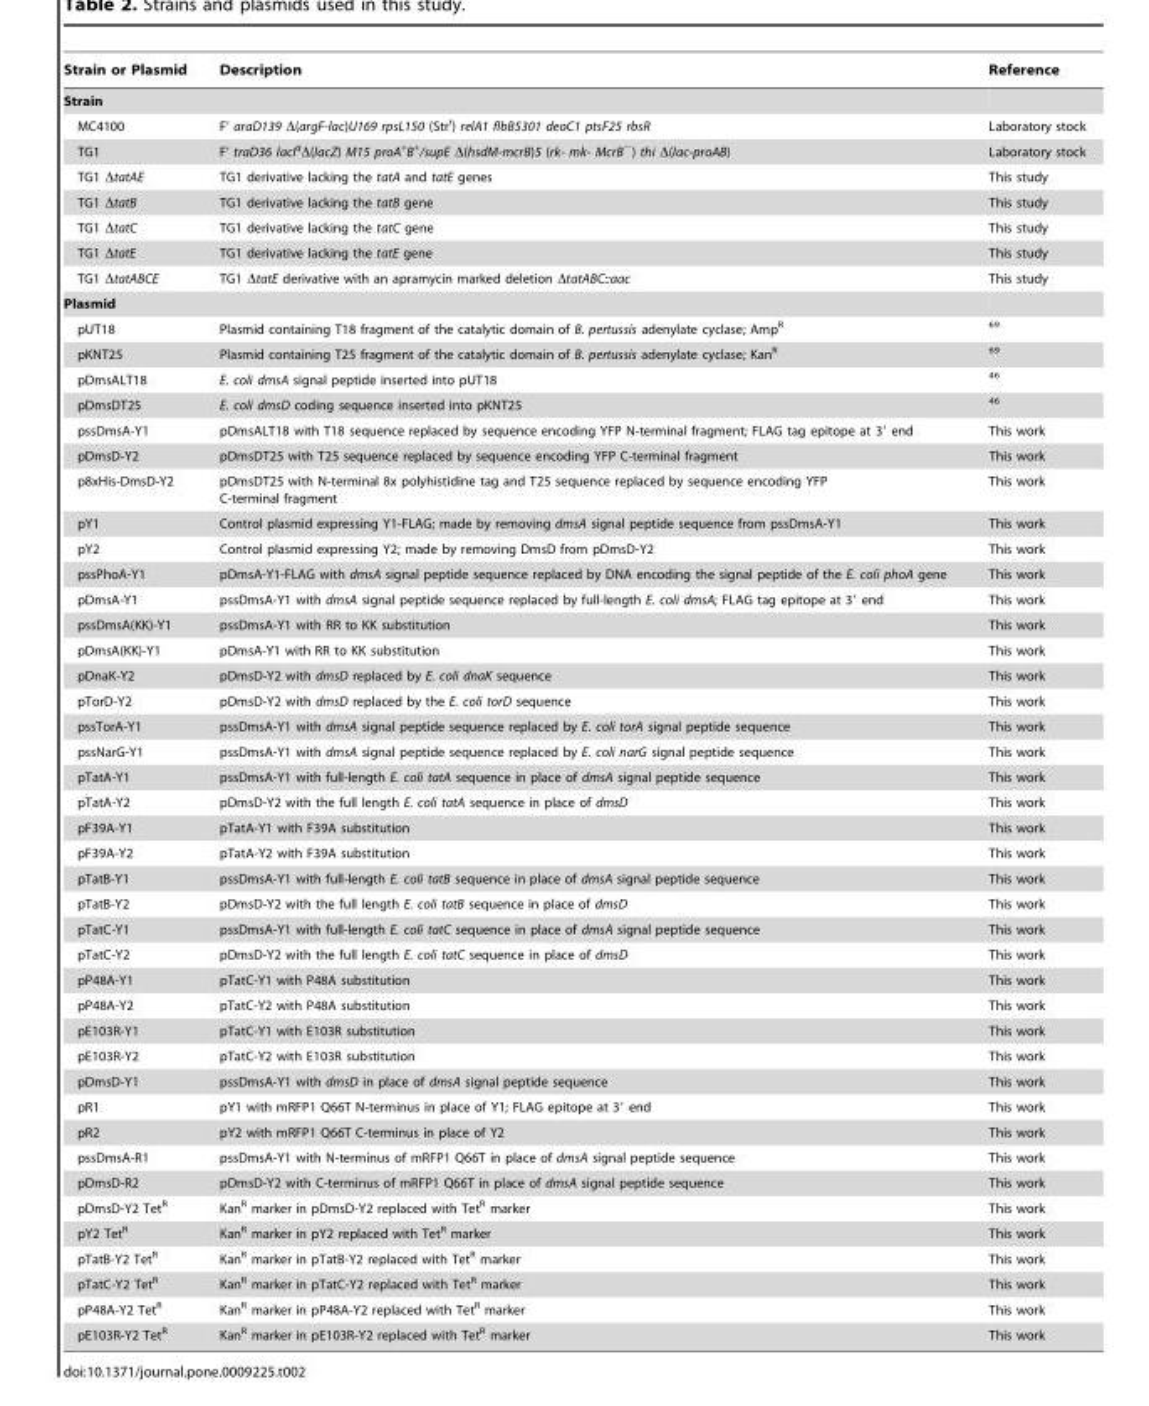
<table><thead><tr><td>Strain or Plasmid</td><td>Description</td><td>Reference</td></tr></thead><tbody><tr><td colspan="3">Strain</td></tr><tr><td>MC4100</td><td>F’ araD139 Δ(argF-lac)U169 rpsL150 (Str<sup>r</sup>) relA1 flbB5301 deoC1 ptsF25 rbsR</td><td>Laboratory stock</td></tr><tr><td>TG1</td><td>F’ traD36 lacI<sup>q</sup>Δ(lacZ) M15 proA<sup>+</sup>B<sup>+</sup>/supE Δ(hsdM-mcrB)5 (rk- mk- McrB<sup>−</sup>) thi Δ(lac-proAB)</td><td>Laboratory stock</td></tr><tr><td>TG1 ΔtatAE</td><td>TG1 derivative lacking the tatA and tatE genes</td><td>This study</td></tr><tr><td>TG1 ΔtatB</td><td>TG1 derivative lacking the tatB gene</td><td>This study</td></tr><tr><td>TG1 ΔtatC</td><td>TG1 derivative lacking the tatC gene</td><td>This study</td></tr><tr><td>TG1 ΔtatE</td><td>TG1 derivative lacking the tatE gene</td><td>This study</td></tr><tr><td>TG1 ΔtatABCE</td><td>TG1 ΔtatE derivative with an apramycin marked deletion ΔtatABC::aac</td><td>This study</td></tr><tr><td colspan="3">Plasmid</td></tr><tr><td>pUT18</td><td>Plasmid containing T18 fragment of the catalytic domain of B. pertussis adenylate cyclase; Amp<sup>R</sup></td><td><sup>69</sup></td></tr><tr><td>pKNT25</td><td>Plasmid containing T25 fragment of the catalytic domain of B. pertussis adenylate cyclase; Kan<sup>R</sup></td><td><sup>69</sup></td></tr><tr><td>pDmsALT18</td><td>E. coli dmsA signal peptide inserted into pUT18</td><td><sup>46</sup></td></tr><tr><td>pDmsDT25</td><td>E. coli dmsD coding sequence inserted into pKNT25</td><td><sup>46</sup></td></tr><tr><td>pssDmsA-Y1</td><td>pDmsALT18 with T18 sequence replaced by sequence encoding YFP N-terminal fragment; FLAG tag epitope at 3′ end</td><td>This work</td></tr><tr><td>pDmsD-Y2</td><td>pDmsDT25 with T25 sequence replaced by sequence encoding YFP C-terminal fragment</td><td>This work</td></tr><tr><td>p8xHis-DmsD-Y2</td><td>pDmsDT25 with N-terminal 8x polyhistidine tag and T25 sequence replaced by sequence encoding YFP C-terminal fragment</td><td>This work</td></tr><tr><td>pY1</td><td>Control plasmid expressing Y1-FLAG; made by removing dmsA signal peptide sequence from pssDmsA-Y1</td><td>This work</td></tr><tr><td>pY2</td><td>Control plasmid expressing Y2; made by removing DmsD from pDmsD-Y2</td><td>This work</td></tr><tr><td>pssPhoA-Y1</td><td>pDmsA-Y1-FLAG with dmsA signal peptide sequence replaced by DNA encoding the signal peptide of the E. coli phoA gene</td><td>This work</td></tr><tr><td>pDmsA-Y1</td><td>pssDmsA-Y1 with dmsA signal peptide sequence replaced by full-length E. coli dmsA; FLAG tag epitope at 3′ end</td><td>This work</td></tr><tr><td>pssDmsA(KK)-Y1</td><td>pssDmsA-Y1 with RR to KK substitution</td><td>This work</td></tr><tr><td>pDmsA(KK)-Y1</td><td>pDmsA-Y1 with RR to KK substitution</td><td>This work</td></tr><tr><td>pDnaK-Y2</td><td>pDmsD-Y2 with dmsD replaced by E. coli dnaK sequence</td><td>This work</td></tr><tr><td>pTorD-Y2</td><td>pDmsD-Y2 with dmsD replaced by the E. coli torD sequence</td><td>This work</td></tr><tr><td>pssTorA-Y1</td><td>pssDmsA-Y1 with dmsA signal peptide sequence replaced by E. coli torA signal peptide sequence</td><td>This work</td></tr><tr><td>pssNarG-Y1</td><td>pssDmsA-Y1 with dmsA signal peptide sequence replaced by E. coli narG signal peptide sequence</td><td>This work</td></tr><tr><td>pTatA-Y1</td><td>pssDmsA-Y1 with full-length E. coli tatA sequence in place of dmsA signal peptide sequence</td><td>This work</td></tr><tr><td>pTatA-Y2</td><td>pDmsD-Y2 with the full length E. coli tatA sequence in place of dmsD</td><td>This work</td></tr><tr><td>pF39A-Y1</td><td>pTatA-Y1 with F39A substitution</td><td>This work</td></tr><tr><td>pF39A-Y2</td><td>pTatA-Y2 with F39A substitution</td><td>This work</td></tr><tr><td>pTatB-Y1</td><td>pssDmsA-Y1 with full-length E. coli tatB sequence in place of dmsA signal peptide sequence</td><td>This work</td></tr><tr><td>pTatB-Y2</td><td>pDmsD-Y2 with the full length E. coli tatB sequence in place of dmsD</td><td>This work</td></tr><tr><td>pTatC-Y1</td><td>pssDmsA-Y1 with full-length E. coli tatC sequence in place of dmsA signal peptide sequence</td><td>This work</td></tr><tr><td>pTatC-Y2</td><td>pDmsD-Y2 with the full length E. coli tatC sequence in place of dmsD</td><td>This work</td></tr><tr><td>pP48A-Y1</td><td>pTatC-Y1 with P48A substitution</td><td>This work</td></tr><tr><td>pP48A-Y2</td><td>pTatC-Y2 with P48A substitution</td><td>This work</td></tr><tr><td>pE103R-Y1</td><td>pTatC-Y1 with E103R substitution</td><td>This work</td></tr><tr><td>pE103R-Y2</td><td>pTatC-Y2 with E103R substitution</td><td>This work</td></tr><tr><td>pDmsD-Y1</td><td>pssDmsA-Y1 with dmsD in place of dmsA signal peptide sequence</td><td>This work</td></tr><tr><td>pR1</td><td>pY1 with mRFP1 Q66T N-terminus in place of Y1; FLAG epitope at 3′ end</td><td>This work</td></tr><tr><td>pR2</td><td>pY2 with mRFP1 Q66T C-terminus in place of Y2</td><td>This work</td></tr><tr><td>pssDmsA-R1</td><td>pssDmsA-Y1 with N-terminus of mRFP1 Q66T in place of dmsA signal peptide sequence</td><td>This work</td></tr><tr><td>pDmsD-R2</td><td>pDmsD-Y2 with C-terminus of mRFP1 Q66T in place of dmsA signal peptide sequence</td><td>This work</td></tr><tr><td>pDmsD-Y2 Tet<sup>R</sup></td><td>Kan<sup>R</sup> marker in pDmsD-Y2 replaced with Tet<sup>R</sup> marker</td><td>This work</td></tr><tr><td>pY2 Tet<sup>R</sup></td><td>Kan<sup>R</sup> marker in pY2 replaced with Tet<sup>R</sup> marker</td><td>This work</td></tr><tr><td>pTatB-Y2 Tet<sup>R</sup></td><td>Kan<sup>R</sup> marker in pTatB-Y2 replaced with Tet<sup>R</sup> marker</td><td>This work</td></tr><tr><td>pTatC-Y2 Tet<sup>R</sup></td><td>Kan<sup>R</sup> marker in pTatC-Y2 replaced with Tet<sup>R</sup> marker</td><td>This work</td></tr><tr><td>pP48A-Y2 Tet<sup>R</sup></td><td>Kan<sup>R</sup> marker in pP48A-Y2 replaced with Tet<sup>R</sup> marker</td><td>This work</td></tr><tr><td>pE103R-Y2 Tet<sup>R</sup></td><td>Kan<sup>R</sup> marker in pE103R-Y2 replaced with Tet<sup>R</sup> marker</td><td>This work</td></tr></tbody></table>